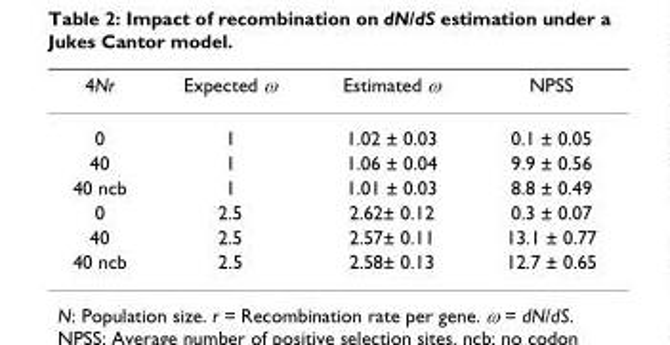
<table><thead><tr><td>4Nr</td><td>Expected ω</td><td>Estimated ω</td><td>NPSS</td></tr></thead><tbody><tr><td>0</td><td>1</td><td>1.02 ± 0.03</td><td>0.1 ± 0.05</td></tr><tr><td>40</td><td>1</td><td>1.06 ± 0.04</td><td>9.9 ± 0.56</td></tr><tr><td>40 ncb</td><td>1</td><td>1.01 ± 0.03</td><td>8.8 ± 0.49</td></tr><tr><td>0</td><td>2.5</td><td>2.62± 0.12</td><td>0.3 ± 0.07</td></tr><tr><td>40</td><td>2.5</td><td>2.57± 0.11</td><td>13.1 ± 0.77</td></tr><tr><td>40 ncb</td><td>2.5</td><td>2.58± 0.13</td><td>12.7 ± 0.65</td></tr></tbody></table>